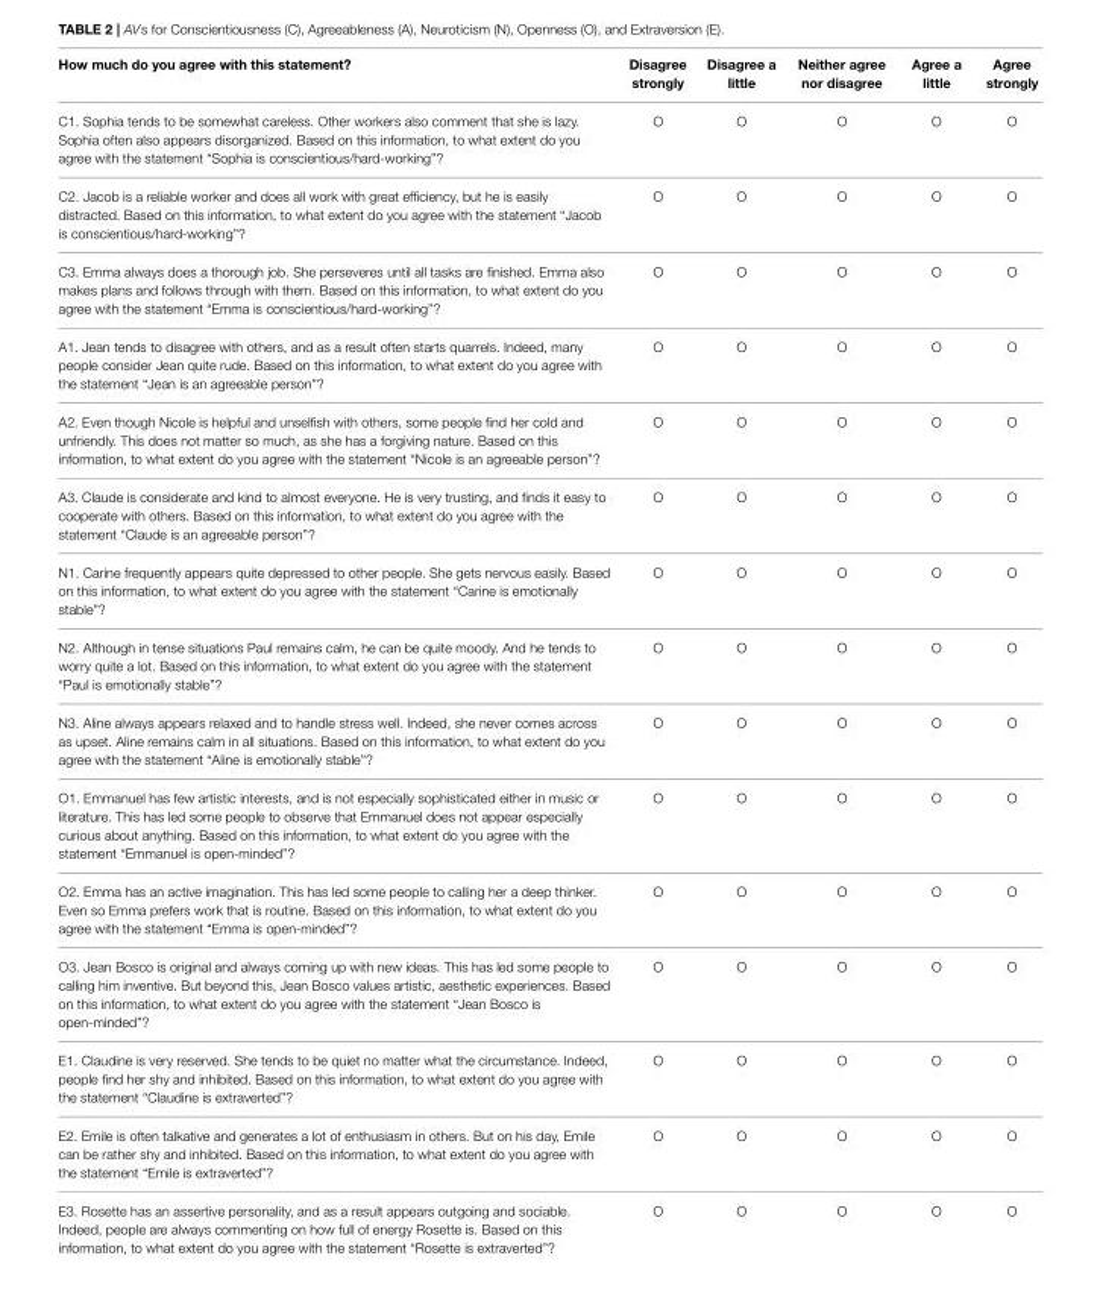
<table><thead><tr><td>How much do you agree with this statement?</td><td>Disagree strongly</td><td>Disagree a little</td><td>Neither agree nor disagree</td><td>Agree a little</td><td>Agree strongly</td></tr></thead><tbody><tr><td>C1. Sophia tends to be somewhat careless. Other workers also comment that she is lazy. Sophia often also appears disorganized. Based on this information, to what extent do you agree with the statement “Sophia is conscientious/hard-working”?</td><td>O</td><td>O</td><td>O</td><td>O</td><td>O</td></tr><tr><td>C2. Jacob is a reliable worker and does all work with great efficiency, but he is easily distracted. Based on this information, to what extent do you agree with the statement “Jacob is conscientious/hard-working”?</td><td>O</td><td>O</td><td>O</td><td>O</td><td>O</td></tr><tr><td>C3. Emma always does a thorough job. She perseveres until all tasks are finished. Emma also makes plans and follows through with them. Based on this information, to what extent do you agree with the statement “Emma is conscientious/hard-working”?</td><td>O</td><td>O</td><td>O</td><td>O</td><td>O</td></tr><tr><td>A1. Jean tends to disagree with others, and as a result often starts quarrels. Indeed, many people consider Jean quite rude. Based on this information, to what extent do you agree with the statement “Jean is an agreeable person”?</td><td>O</td><td>O</td><td>O</td><td>O</td><td>O</td></tr><tr><td>A2. Even though Nicole is helpful and unselfish with others, some people find her cold and unfriendly. This does not matter so much, as she has a forgiving nature. Based on this information, to what extent do you agree with the statement “Nicole is an agreeable person”?</td><td>O</td><td>O</td><td>O</td><td>O</td><td>O</td></tr><tr><td>A3. Claude is considerate and kind to almost everyone. He is very trusting, and finds it easy to cooperate with others. Based on this information, to what extent do you agree with the statement “Claude is an agreeable person”?</td><td>O</td><td>O</td><td>O</td><td>O</td><td>O</td></tr><tr><td>N1. Carine frequently appears quite depressed to other people. She gets nervous easily. Based on this information, to what extent do you agree with the statement “Carine is emotionally stable”?</td><td>O</td><td>O</td><td>O</td><td>O</td><td>O</td></tr><tr><td>N2. Although in tense situations Paul remains calm, he can be quite moody. And he tends to worry quite a lot. Based on this information, to what extent do you agree with the statement “Paul is emotionally stable”?</td><td>O</td><td>O</td><td>O</td><td>O</td><td>O</td></tr><tr><td>N3. Aline always appears relaxed and to handle stress well. Indeed, she never comes across as upset. Aline remains calm in all situations. Based on this information, to what extent do you agree with the statement “Aline is emotionally stable”?</td><td>O</td><td>O</td><td>O</td><td>O</td><td>O</td></tr><tr><td>O1. Emmanuel has few artistic interests, and is not especially sophisticated either in music or literature. This has led some people to observe that Emmanuel does not appear especially curious about anything. Based on this information, to what extent do you agree with the statement “Emmanuel is open-minded”?</td><td>O</td><td>O</td><td>O</td><td>O</td><td>O</td></tr><tr><td>O2. Emma has an active imagination. This has led some people to calling her a deep thinker. Even so Emma prefers work that is routine. Based on this information, to what extent do you agree with the statement “Emma is open-minded”?</td><td>O</td><td>O</td><td>O</td><td>O</td><td>O</td></tr><tr><td>O3. Jean Bosco is original and always coming up with new ideas. This has led some people to calling him inventive. But beyond this, Jean Bosco values artistic, aesthetic experiences. Based on this information, to what extent do you agree with the statement “Jean Bosco is open-minded”?</td><td>O</td><td>O</td><td>O</td><td>O</td><td>O</td></tr><tr><td>E1. Claudine is very reserved. She tends to be quiet no matter what the circumstance. Indeed, people find her shy and inhibited. Based on this information, to what extent do you agree with the statement “Claudine is extraverted”?</td><td>O</td><td>O</td><td>O</td><td>O</td><td>O</td></tr><tr><td>E2. Emile is often talkative and generates a lot of enthusiasm in others. But on his day, Emile can be rather shy and inhibited. Based on this information, to what extent do you agree with the statement “Emile is extraverted”?</td><td>O</td><td>O</td><td>O</td><td>O</td><td>O</td></tr><tr><td>E3. Rosette has an assertive personality, and as a result appears outgoing and sociable. Indeed, people are always commenting on how full of energy Rosette is. Based on this information, to what extent do you agree with the statement “Rosette is extraverted”?</td><td>O</td><td>O</td><td>O</td><td>O</td><td>O</td></tr></tbody></table>